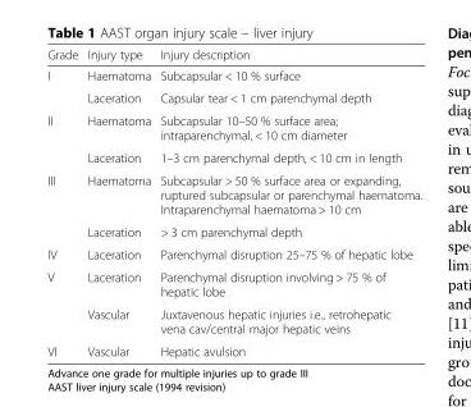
<table><thead><tr><td>Grade</td><td>Injury type</td><td>Injury description</td></tr></thead><tbody><tr><td rowspan="2">I</td><td>Haematoma</td><td>Subcapsular &lt; 10 % surface</td></tr><tr><td>Laceration</td><td>Capsular tear &lt; 1 cm parenchymal depth</td></tr><tr><td rowspan="2">II</td><td>Haematoma</td><td>Subcapsular 10–50 % surface area; intraparenchymal, &lt; 10 cm diameter</td></tr><tr><td>Laceration</td><td>1–3 cm parenchymal depth, &lt; 10 cm in length</td></tr><tr><td rowspan="2">III</td><td>Haematoma</td><td>Subcapsular &gt; 50 % surface area or expanding, ruptured subcapsular or parenchymal haematoma. Intraparenchymal haematoma &gt; 10 cm</td></tr><tr><td>Laceration</td><td>&gt; 3 cm parenchymal depth</td></tr><tr><td>IV</td><td>Laceration</td><td>Parenchymal disruption 25–75 % of hepatic lobe</td></tr><tr><td rowspan="2">V</td><td>Laceration</td><td>Parenchymal disruption involving &gt; 75 % of hepatic lobe</td></tr><tr><td>Vascular</td><td>Juxtavenous hepatic injuries i.e., retrohepatic vena cav/central major hepatic veins</td></tr><tr><td>VI</td><td>Vascular</td><td>Hepatic avulsion</td></tr></tbody></table>